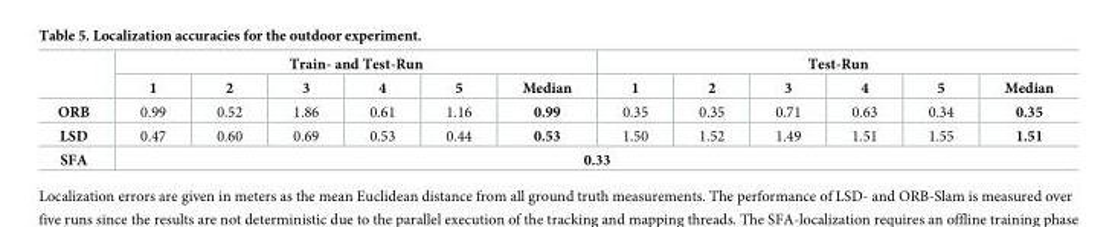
<table><thead><tr><td rowspan="2"></td><td colspan="6">Train- and Test-Run</td><td colspan="6">Test-Run</td></tr><tr><td>1</td><td>2</td><td>3</td><td>4</td><td>5</td><td>Median</td><td>1</td><td>2</td><td>3</td><td>4</td><td>5</td><td>Median</td></tr></thead><tbody><tr><td>ORB</td><td>0.99</td><td>0.52</td><td>1.86</td><td>0.61</td><td>1.16</td><td>0.99</td><td>0.35</td><td>0.35</td><td>0.71</td><td>0.63</td><td>0.34</td><td>0.35</td></tr><tr><td>LSD</td><td>0.47</td><td>0.60</td><td>0.69</td><td>0.53</td><td>0.44</td><td>0.53</td><td>1.50</td><td>1.52</td><td>1.49</td><td>1.51</td><td>1.55</td><td>1.51</td></tr><tr><td>SFA</td><td colspan="12">0.33</td></tr></tbody></table>